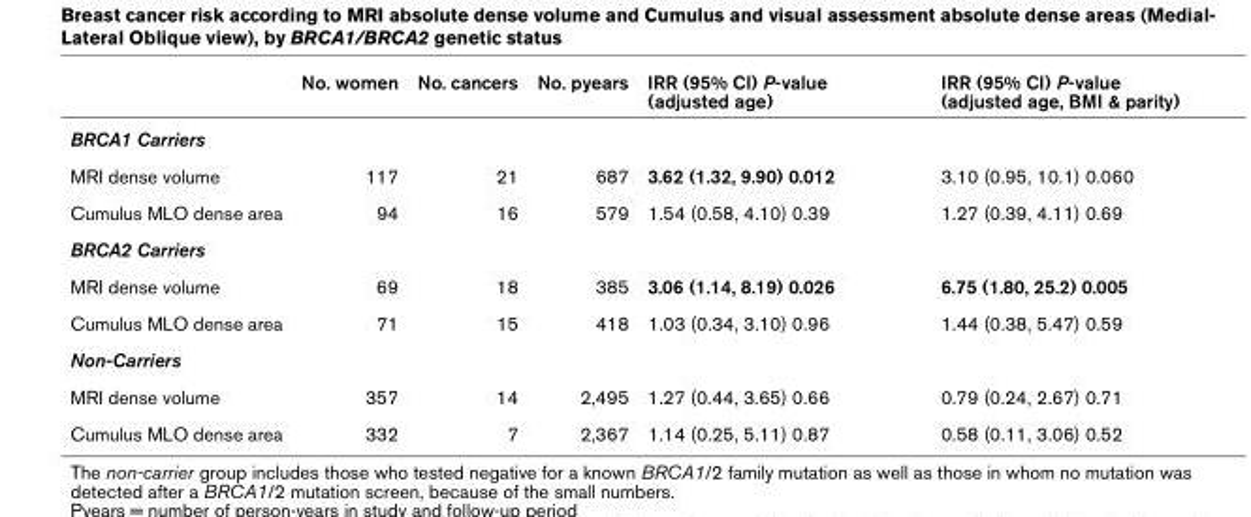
<table><thead><tr><td></td><td>No. women</td><td>No. cancers</td><td>No. pyears</td><td>IRR (95% CI) P-value (adjusted age)</td><td>IRR (95% CI) P-value (adjusted age, BMI &amp; parity)</td></tr></thead><tbody><tr><td colspan="6">BRCA1 Carriers</td></tr><tr><td>MRI dense volume</td><td>117</td><td>21</td><td>687</td><td>3.62 (1.32, 9.90) 0.012</td><td>3.10 (0.95, 10.1) 0.060</td></tr><tr><td>Cumulus MLO dense area</td><td>94</td><td>16</td><td>579</td><td>1.54 (0.58, 4.10) 0.39</td><td>1.27 (0.39, 4.11) 0.69</td></tr><tr><td colspan="6">BRCA2 Carriers</td></tr><tr><td>MRI dense volume</td><td>69</td><td>18</td><td>385</td><td>3.06 (1.14, 8.19) 0.026</td><td>6.75 (1.80, 25.2) 0.005</td></tr><tr><td>Cumulus MLO dense area</td><td>71</td><td>15</td><td>418</td><td>1.03 (0.34, 3.10) 0.96</td><td>1.44 (0.38, 5.47) 0.59</td></tr><tr><td colspan="6">Non-Carriers</td></tr><tr><td>MRI dense volume</td><td>357</td><td>14</td><td>2,495</td><td>1.27 (0.44, 3.65) 0.66</td><td>0.79 (0.24, 2.67) 0.71</td></tr><tr><td>Cumulus MLO dense area</td><td>332</td><td>7</td><td>2,367</td><td>1.14 (0.25, 5.11) 0.87</td><td>0.58 (0.11, 3.06) 0.52</td></tr></tbody></table>